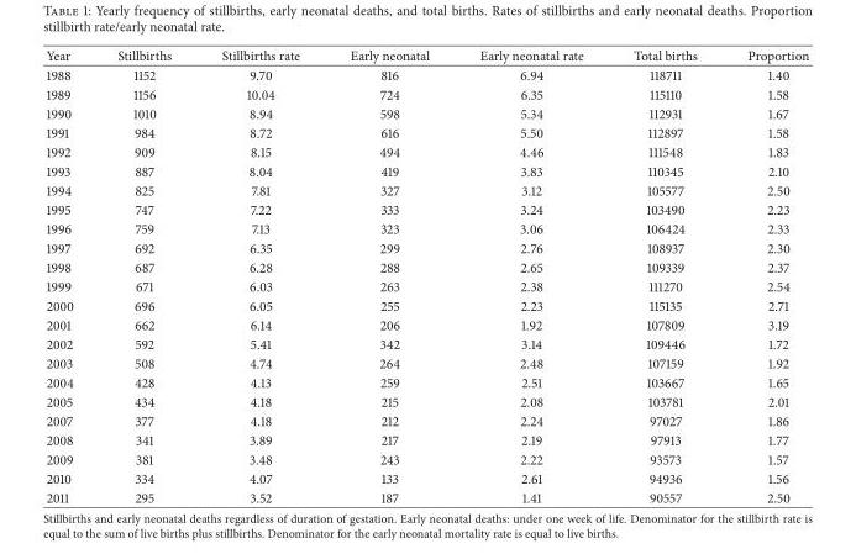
<table><thead><tr><td>Year</td><td>Stillbirths</td><td>Stillbirths rate</td><td>Early neonatal</td><td>Early neonatal rate</td><td>Total births</td><td>Proportion</td></tr></thead><tbody><tr><td>1988</td><td>1152</td><td>9.70</td><td>816</td><td>6.94</td><td>118711</td><td>1.40</td></tr><tr><td>1989</td><td>1156</td><td>10.04</td><td>724</td><td>6.35</td><td>115110</td><td>1.58</td></tr><tr><td>1990</td><td>1010</td><td>8.94</td><td>598</td><td>5.34</td><td>112931</td><td>1.67</td></tr><tr><td>1991</td><td>984</td><td>8.72</td><td>616</td><td>5.50</td><td>112897</td><td>1.58</td></tr><tr><td>1992</td><td>909</td><td>8.15</td><td>494</td><td>4.46</td><td>111548</td><td>1.83</td></tr><tr><td>1993</td><td>887</td><td>8.04</td><td>419</td><td>3.83</td><td>110345</td><td>2.10</td></tr><tr><td>1994</td><td>825</td><td>7.81</td><td>327</td><td>3.12</td><td>105577</td><td>2.50</td></tr><tr><td>1995</td><td>747</td><td>7.22</td><td>333</td><td>3.24</td><td>103490</td><td>2.23</td></tr><tr><td>1996</td><td>759</td><td>7.13</td><td>323</td><td>3.06</td><td>106424</td><td>2.33</td></tr><tr><td>1997</td><td>692</td><td>6.35</td><td>299</td><td>2.76</td><td>108937</td><td>2.30</td></tr><tr><td>1998</td><td>687</td><td>6.28</td><td>288</td><td>2.65</td><td>109339</td><td>2.37</td></tr><tr><td>1999</td><td>671</td><td>6.03</td><td>263</td><td>2.38</td><td>111270</td><td>2.54</td></tr><tr><td>2000</td><td>696</td><td>6.05</td><td>255</td><td>2.23</td><td>115135</td><td>2.71</td></tr><tr><td>2001</td><td>662</td><td>6.14</td><td>206</td><td>1.92</td><td>107809</td><td>3.19</td></tr><tr><td>2002</td><td>592</td><td>5.41</td><td>342</td><td>3.14</td><td>109446</td><td>1.72</td></tr><tr><td>2003</td><td>508</td><td>4.74</td><td>264</td><td>2.48</td><td>107159</td><td>1.92</td></tr><tr><td>2004</td><td>428</td><td>4.13</td><td>259</td><td>2.51</td><td>103667</td><td>1.65</td></tr><tr><td>2005</td><td>434</td><td>4.18</td><td>215</td><td>2.08</td><td>103781</td><td>2.01</td></tr><tr><td>2007</td><td>377</td><td>4.18</td><td>212</td><td>2.24</td><td>97027</td><td>1.86</td></tr><tr><td>2008</td><td>341</td><td>3.89</td><td>217</td><td>2.19</td><td>97913</td><td>1.77</td></tr><tr><td>2009</td><td>381</td><td>3.48</td><td>243</td><td>2.22</td><td>93573</td><td>1.57</td></tr><tr><td>2010</td><td>334</td><td>4.07</td><td>133</td><td>2.61</td><td>94936</td><td>1.56</td></tr><tr><td>2011</td><td>295</td><td>3.52</td><td>187</td><td>1.41</td><td>90557</td><td>2.50</td></tr></tbody></table>